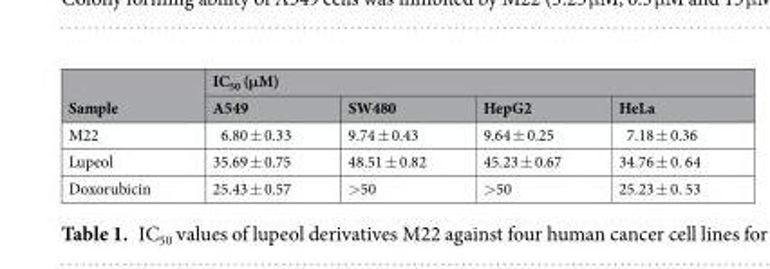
<table><thead><tr><td rowspan="2">Sample</td><td colspan="4">IC<sub>50</sub> (μM)</td></tr><tr><td>A549</td><td>SW480</td><td>HepG2</td><td>HeLa</td></tr></thead><tbody><tr><td>M22</td><td>6.80 ± 0.33</td><td>9.74 ± 0.43</td><td>9.64 ± 0.25</td><td>7.18 ± 0.36</td></tr><tr><td>Lupeol</td><td>35.69 ± 0.75</td><td>48.51 ± 0.82</td><td>45.23 ± 0.67</td><td>34.76 ± 0. 64</td></tr><tr><td>Doxorubicin</td><td>25.43 ± 0.57</td><td>&gt;50</td><td>&gt;50</td><td>25.23 ± 0. 53</td></tr></tbody></table>